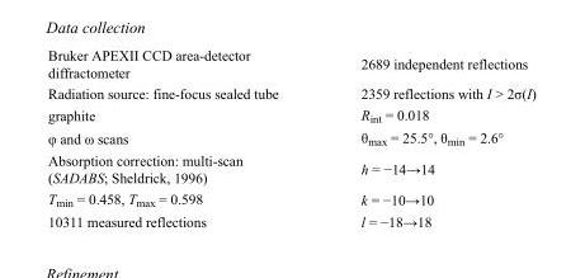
<table><tbody><tr><td>Bruker APEXII CCD area-detector diffractometer</td><td>2689 independent reflections</td></tr><tr><td>Radiation source: fine-focus sealed tube</td><td>2359 reflections with I &gt; 2σ(I)</td></tr><tr><td>graphite</td><td>R<sub>int</sub> = 0.018</td></tr><tr><td>φ and ω scans</td><td>θ<sub>max</sub> = 25.5°, θ<sub>min</sub> = 2.6°</td></tr><tr><td>Absorption correction: multi-scan (SADABS; Sheldrick, 1996)</td><td>h = −14→14</td></tr><tr><td>T<sub>min</sub> = 0.458, T<sub>max</sub> = 0.598</td><td>k = −10→10</td></tr><tr><td>10311 measured reflections</td><td>l = −18→18</td></tr></tbody></table>